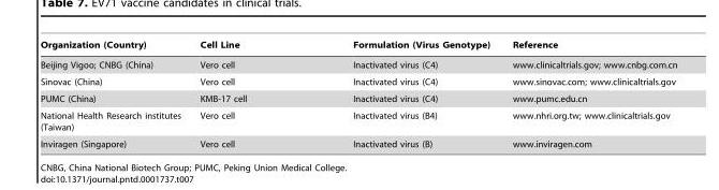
<table><thead><tr><td>Organization (Country)</td><td>Cell Line</td><td>Formulation (Virus Genotype)</td><td>Reference</td></tr></thead><tbody><tr><td>Beijing Vigoo; CNBG (China)</td><td>Vero cell</td><td>Inactivated virus (C4)</td><td>www.clinicaltrials.gov; www.cnbg.com.cn</td></tr><tr><td>Sinovac (China)</td><td>Vero cell</td><td>Inactivated virus (C4)</td><td>www.sinovac.com; www.clinicaltrials.gov</td></tr><tr><td>PUMC (China)</td><td>KMB-17 cell</td><td>Inactivated virus (C4)</td><td>www.pumc.edu.cn</td></tr><tr><td>National Health Research institutes (Taiwan)</td><td>Vero cell</td><td>Inactivated virus (B4)</td><td>www.nhri.org.tw; www.clinicaltrials.gov</td></tr><tr><td>Inviragen (Singapore)</td><td>Vero cell</td><td>Inactivated virus (B)</td><td>www.inviragen.com</td></tr></tbody></table>